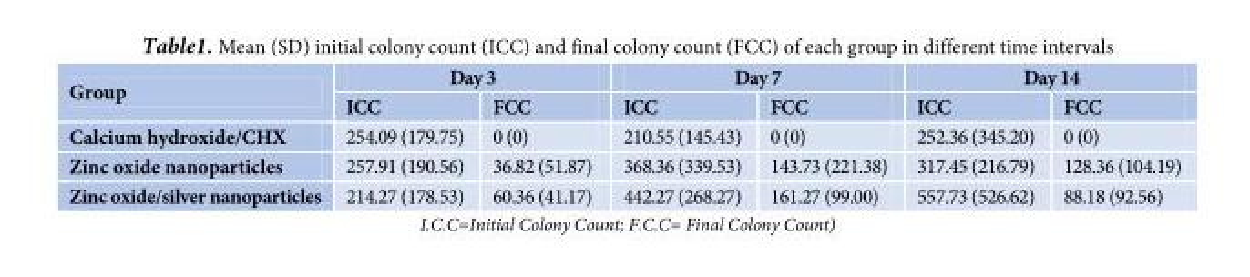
<table><thead><tr><td rowspan="2">Group</td><td colspan="2">Day 3</td><td colspan="2">Day 7</td><td colspan="2">Day 14</td></tr><tr><td>ICC</td><td>FCC</td><td>ICC</td><td>FCC</td><td>ICC</td><td>FCC</td></tr></thead><tbody><tr><td>Calcium hydroxide/CHX</td><td>254.09 (179.75)</td><td>0 (0)</td><td>210.55 (145.43)</td><td>0 (0)</td><td>252.36 (345.20)</td><td>0 (0)</td></tr><tr><td>Zinc oxide nanoparticles</td><td>257.91 (190.56)</td><td>36.82 (51.87)</td><td>368.36 (339.53)</td><td>143.73 (221.38)</td><td>317.45 (216.79)</td><td>128.36 (104.19)</td></tr><tr><td>Zinc oxide/silver nanoparticles</td><td>214.27 (178.53)</td><td>60.36 (41.17)</td><td>442.27 (268.27)</td><td>161.27 (99.00)</td><td>557.73 (526.62)</td><td>88.18 (92.56)</td></tr></tbody></table>